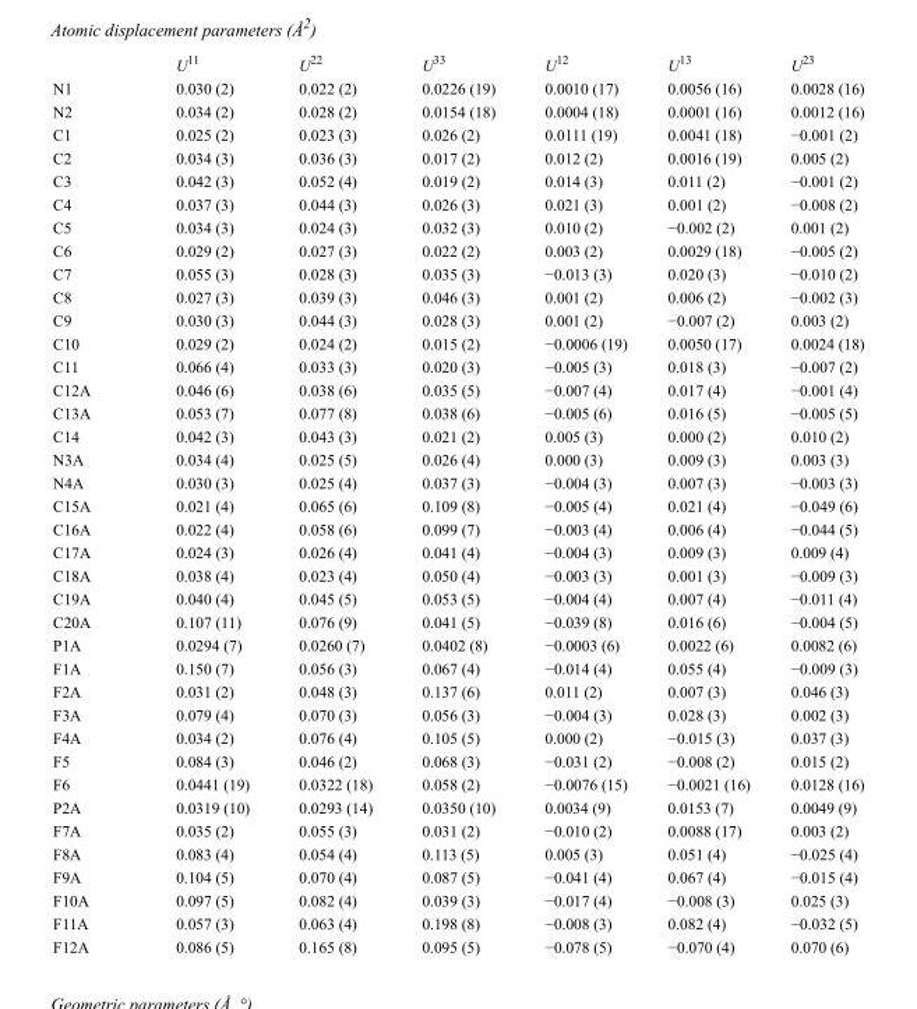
<table><thead><tr><td></td><td>U<sup>11</sup></td><td>U<sup>22</sup></td><td>U<sup>33</sup></td><td>U<sup>12</sup></td><td>U<sup>13</sup></td><td>U<sup>23</sup></td></tr></thead><tbody><tr><td>N1</td><td>0.030 (2)</td><td>0.022 (2)</td><td>0.0226 (19)</td><td>0.0010 (17)</td><td>0.0056 (16)</td><td>0.0028 (16)</td></tr><tr><td>N2</td><td>0.034 (2)</td><td>0.028 (2)</td><td>0.0154 (18)</td><td>0.0004 (18)</td><td>0.0001 (16)</td><td>0.0012 (16)</td></tr><tr><td>C1</td><td>0.025 (2)</td><td>0.023 (3)</td><td>0.026 (2)</td><td>0.0111 (19)</td><td>0.0041 (18)</td><td>−0.001 (2)</td></tr><tr><td>C2</td><td>0.034 (3)</td><td>0.036 (3)</td><td>0.017 (2)</td><td>0.012 (2)</td><td>0.0016 (19)</td><td>0.005 (2)</td></tr><tr><td>C3</td><td>0.042 (3)</td><td>0.052 (4)</td><td>0.019 (2)</td><td>0.014 (3)</td><td>0.011 (2)</td><td>−0.001 (2)</td></tr><tr><td>C4</td><td>0.037 (3)</td><td>0.044 (3)</td><td>0.026 (3)</td><td>0.021 (3)</td><td>0.001 (2)</td><td>−0.008 (2)</td></tr><tr><td>C5</td><td>0.034 (3)</td><td>0.024 (3)</td><td>0.032 (3)</td><td>0.010 (2)</td><td>−0.002 (2)</td><td>0.001 (2)</td></tr><tr><td>C6</td><td>0.029 (2)</td><td>0.027 (3)</td><td>0.022 (2)</td><td>0.003 (2)</td><td>0.0029 (18)</td><td>−0.005 (2)</td></tr><tr><td>C7</td><td>0.055 (3)</td><td>0.028 (3)</td><td>0.035 (3)</td><td>−0.013 (3)</td><td>0.020 (3)</td><td>−0.010 (2)</td></tr><tr><td>C8</td><td>0.027 (3)</td><td>0.039 (3)</td><td>0.046 (3)</td><td>0.001 (2)</td><td>0.006 (2)</td><td>−0.002 (3)</td></tr><tr><td>C9</td><td>0.030 (3)</td><td>0.044 (3)</td><td>0.028 (3)</td><td>0.001 (2)</td><td>−0.007 (2)</td><td>0.003 (2)</td></tr><tr><td>C10</td><td>0.029 (2)</td><td>0.024 (2)</td><td>0.015 (2)</td><td>−0.0006 (19)</td><td>0.0050 (17)</td><td>0.0024 (18)</td></tr><tr><td>C11</td><td>0.066 (4)</td><td>0.033 (3)</td><td>0.020 (3)</td><td>−0.005 (3)</td><td>0.018 (3)</td><td>−0.007 (2)</td></tr><tr><td>C12A</td><td>0.046 (6)</td><td>0.038 (6)</td><td>0.035 (5)</td><td>−0.007 (4)</td><td>0.017 (4)</td><td>−0.001 (4)</td></tr><tr><td>C13A</td><td>0.053 (7)</td><td>0.077 (8)</td><td>0.038 (6)</td><td>−0.005 (6)</td><td>0.016 (5)</td><td>−0.005 (5)</td></tr><tr><td>C14</td><td>0.042 (3)</td><td>0.043 (3)</td><td>0.021 (2)</td><td>0.005 (3)</td><td>0.000 (2)</td><td>0.010 (2)</td></tr><tr><td>N3A</td><td>0.034 (4)</td><td>0.025 (5)</td><td>0.026 (4)</td><td>0.000 (3)</td><td>0.009 (3)</td><td>0.003 (3)</td></tr><tr><td>N4A</td><td>0.030 (3)</td><td>0.025 (4)</td><td>0.037 (3)</td><td>−0.004 (3)</td><td>0.007 (3)</td><td>−0.003 (3)</td></tr><tr><td>C15A</td><td>0.021 (4)</td><td>0.065 (6)</td><td>0.109 (8)</td><td>−0.005 (4)</td><td>0.021 (4)</td><td>−0.049 (6)</td></tr><tr><td>C16A</td><td>0.022 (4)</td><td>0.058 (6)</td><td>0.099 (7)</td><td>−0.003 (4)</td><td>0.006 (4)</td><td>−0.044 (5)</td></tr><tr><td>C17A</td><td>0.024 (3)</td><td>0.026 (4)</td><td>0.041 (4)</td><td>−0.004 (3)</td><td>0.009 (3)</td><td>0.009 (4)</td></tr><tr><td>C18A</td><td>0.038 (4)</td><td>0.023 (4)</td><td>0.050 (4)</td><td>−0.003 (3)</td><td>0.001 (3)</td><td>−0.009 (3)</td></tr><tr><td>C19A</td><td>0.040 (4)</td><td>0.045 (5)</td><td>0.053 (5)</td><td>−0.004 (4)</td><td>0.007 (4)</td><td>−0.011 (4)</td></tr><tr><td>C20A</td><td>0.107 (11)</td><td>0.076 (9)</td><td>0.041 (5)</td><td>−0.039 (8)</td><td>0.016 (6)</td><td>−0.004 (5)</td></tr><tr><td>P1A</td><td>0.0294 (7)</td><td>0.0260 (7)</td><td>0.0402 (8)</td><td>−0.0003 (6)</td><td>0.0022 (6)</td><td>0.0082 (6)</td></tr><tr><td>F1A</td><td>0.150 (7)</td><td>0.056 (3)</td><td>0.067 (4)</td><td>−0.014 (4)</td><td>0.055 (4)</td><td>−0.009 (3)</td></tr><tr><td>F2A</td><td>0.031 (2)</td><td>0.048 (3)</td><td>0.137 (6)</td><td>0.011 (2)</td><td>0.007 (3)</td><td>0.046 (3)</td></tr><tr><td>F3A</td><td>0.079 (4)</td><td>0.070 (3)</td><td>0.056 (3)</td><td>−0.004 (3)</td><td>0.028 (3)</td><td>0.002 (3)</td></tr><tr><td>F4A</td><td>0.034 (2)</td><td>0.076 (4)</td><td>0.105 (5)</td><td>0.000 (2)</td><td>−0.015 (3)</td><td>0.037 (3)</td></tr><tr><td>F5</td><td>0.084 (3)</td><td>0.046 (2)</td><td>0.068 (3)</td><td>−0.031 (2)</td><td>−0.008 (2)</td><td>0.015 (2)</td></tr><tr><td>F6</td><td>0.0441 (19)</td><td>0.0322 (18)</td><td>0.058 (2)</td><td>−0.0076 (15)</td><td>−0.0021 (16)</td><td>0.0128 (16)</td></tr><tr><td>P2A</td><td>0.0319 (10)</td><td>0.0293 (14)</td><td>0.0350 (10)</td><td>0.0034 (9)</td><td>0.0153 (7)</td><td>0.0049 (9)</td></tr><tr><td>F7A</td><td>0.035 (2)</td><td>0.055 (3)</td><td>0.031 (2)</td><td>−0.010 (2)</td><td>0.0088 (17)</td><td>0.003 (2)</td></tr><tr><td>F8A</td><td>0.083 (4)</td><td>0.054 (4)</td><td>0.113 (5)</td><td>0.005 (3)</td><td>0.051 (4)</td><td>−0.025 (4)</td></tr><tr><td>F9A</td><td>0.104 (5)</td><td>0.070 (4)</td><td>0.087 (5)</td><td>−0.041 (4)</td><td>0.067 (4)</td><td>−0.015 (4)</td></tr><tr><td>F10A</td><td>0.097 (5)</td><td>0.082 (4)</td><td>0.039 (3)</td><td>−0.017 (4)</td><td>−0.008 (3)</td><td>0.025 (3)</td></tr><tr><td>F11A</td><td>0.057 (3)</td><td>0.063 (4)</td><td>0.198 (8)</td><td>−0.008 (3)</td><td>0.082 (4)</td><td>−0.032 (5)</td></tr><tr><td>F12A</td><td>0.086 (5)</td><td>0.165 (8)</td><td>0.095 (5)</td><td>−0.078 (5)</td><td>−0.070 (4)</td><td>0.070 (6)</td></tr></tbody></table>